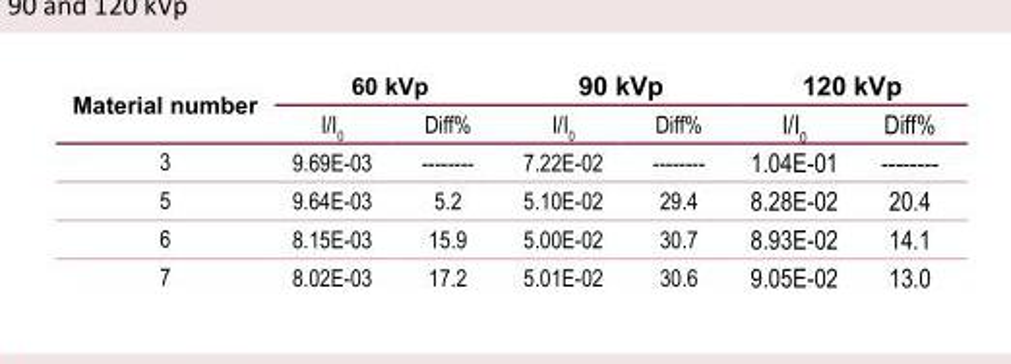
<table><thead><tr><td rowspan="2">Material number</td><td colspan="2">60 kVp</td><td colspan="2">90 kVp</td><td colspan="2">120 kVp</td></tr><tr><td>I/I<sub>0</sub></td><td>Diff%</td><td>I/I<sub>0</sub></td><td>Diff%</td><td>I/I<sub>0</sub></td><td>Diff%</td></tr></thead><tbody><tr><td>3</td><td>9.69E-03</td><td>--------</td><td>7.22E-02</td><td>--------</td><td>1.04E-01</td><td>--------</td></tr><tr><td>5</td><td>9.64E-03</td><td>5.2</td><td>5.10E-02</td><td>29.4</td><td>8.28E-02</td><td>20.4</td></tr><tr><td>6</td><td>8.15E-03</td><td>15.9</td><td>5.00E-02</td><td>30.7</td><td>8.93E-02</td><td>14.1</td></tr><tr><td>7</td><td>8.02E-03</td><td>17.2</td><td>5.01E-02</td><td>30.6</td><td>9.05E-02</td><td>13.0</td></tr></tbody></table>